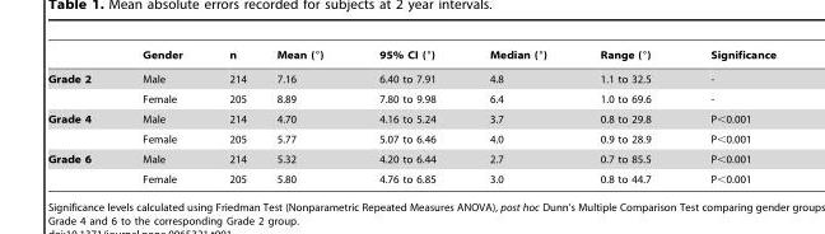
<table><thead><tr><td></td><td>Gender</td><td>n</td><td>Mean (°)</td><td>95% CI (°)</td><td>Median (°)</td><td>Range (°)</td><td>Significance</td></tr></thead><tbody><tr><td rowspan="2">Grade 2</td><td>Male</td><td>214</td><td>7.16</td><td>6.40 to 7.91</td><td>4.8</td><td>1.1 to 32.5</td><td>-</td></tr><tr><td>Female</td><td>205</td><td>8.89</td><td>7.80 to 9.98</td><td>6.4</td><td>1.0 to 69.6</td><td>-</td></tr><tr><td rowspan="2">Grade 4</td><td>Male</td><td>214</td><td>4.70</td><td>4.16 to 5.24</td><td>3.7</td><td>0.8 to 29.8</td><td>P&lt;0.001</td></tr><tr><td>Female</td><td>205</td><td>5.77</td><td>5.07 to 6.46</td><td>4.0</td><td>0.9 to 28.9</td><td>P&lt;0.001</td></tr><tr><td rowspan="2">Grade 6</td><td>Male</td><td>214</td><td>5.32</td><td>4.20 to 6.44</td><td>2.7</td><td>0.7 to 85.5</td><td>P&lt;0.001</td></tr><tr><td>Female</td><td>205</td><td>5.80</td><td>4.76 to 6.85</td><td>3.0</td><td>0.8 to 44.7</td><td>P&lt;0.001</td></tr></tbody></table>